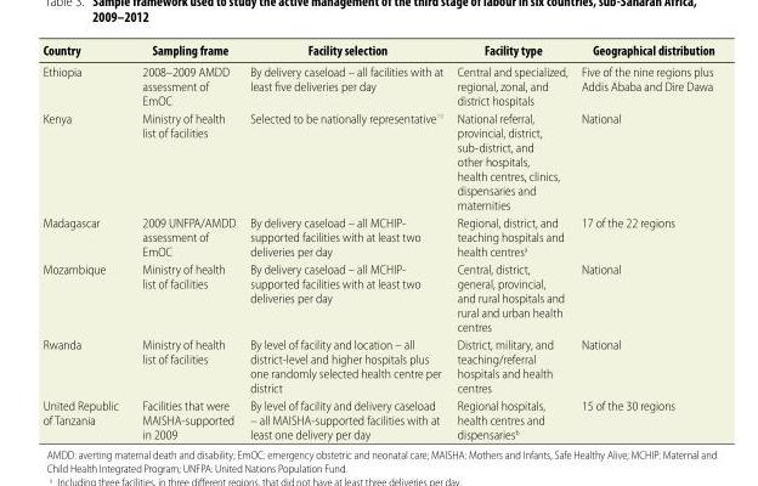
<table><thead><tr><td>Country</td><td>Sampling frame</td><td>Facility selection</td><td>Facility type</td><td>Geographical distribution</td></tr></thead><tbody><tr><td>Ethiopia</td><td>2008–2009 AMDD assessment of EmOC</td><td>By delivery caseload – all facilities with at least five deliveries per day</td><td>Central and specialized, regional, zonal, and district hospitals</td><td>Five of the nine regions plus Addis Ababa and Dire Dawa</td></tr><tr><td>Kenya</td><td>Ministry of health list of facilities</td><td>Selected to be nationally representative<sup>19</sup></td><td>National referral, provincial, district, sub-district, and other hospitals, health centres, clinics, dispensaries and maternities</td><td>National</td></tr><tr><td>Madagascar</td><td>2009 UNFPA/AMDD assessment of EmOC</td><td>By delivery caseload – all MCHIP- supported facilities with at least two deliveries per day</td><td>Regional, district, and teaching hospitals and health centres<sup>a</sup></td><td>17 of the 22 regions</td></tr><tr><td>Mozambique</td><td>Ministry of health list of facilities</td><td>By delivery caseload – all MCHIP- supported facilities with at least two deliveries per day</td><td>Central, district, general, provincial, and rural hospitals and rural and urban health centres</td><td>National</td></tr><tr><td>Rwanda</td><td>Ministry of health list of facilities</td><td>By level of facility and location – all district-level and higher hospitals plus one randomly selected health centre per district</td><td>District, military, and teaching/referral hospitals and health centres</td><td>National</td></tr><tr><td>United Republic of Tanzania</td><td>Facilities that were MAISHA-supported in 2009</td><td>By level of facility and delivery caseload – all MAISHA-supported facilities with at least one delivery per day</td><td>Regional hospitals, health centres and dispensaries<sup>b</sup></td><td>15 of the 30 regions</td></tr></tbody></table>